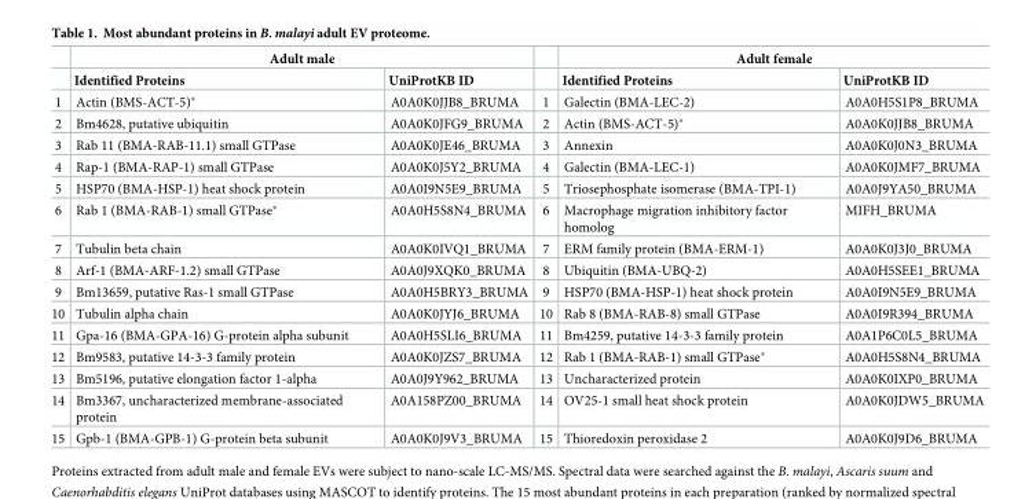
<table><thead><tr><td rowspan="2"></td><td colspan="2">Adult male</td><td rowspan="2"></td><td colspan="2">Adult female</td></tr><tr><td>Identified Proteins</td><td>UniProtKB ID</td><td>Identified Proteins</td><td>UniProtKB ID</td></tr></thead><tbody><tr><td>1</td><td>Actin (BMS-ACT-5)*</td><td>A0A0K0JJB8_BRUMA</td><td>1</td><td>Galectin (BMA-LEC-2)</td><td>A0A0H5S1P8_BRUMA</td></tr><tr><td>2</td><td>Bm4628, putative ubiquitin</td><td>A0A0K0JFG9_BRUMA</td><td>2</td><td>Actin (BMS-ACT-5)*</td><td>A0A0K0JJB8_BRUMA</td></tr><tr><td>3</td><td>Rab 11 (BMA-RAB-11.1) small GTPase</td><td>A0A0K0JE46_BRUMA</td><td>3</td><td>Annexin</td><td>A0A0K0J0N3_BRUMA</td></tr><tr><td>4</td><td>Rap-1 (BMA-RAP-1) small GTPase</td><td>A0A0K0J5Y2_BRUMA</td><td>4</td><td>Galectin (BMA-LEC-1)</td><td>A0A0K0JMF7_BRUMA</td></tr><tr><td>5</td><td>HSP70 (BMA-HSP-1) heat shock protein</td><td>A0A0I9N5E9_BRUMA</td><td>5</td><td>Triosephosphate isomerase (BMA-TPI-1)</td><td>A0A0J9YA50_BRUMA</td></tr><tr><td>6</td><td>Rab 1 (BMA-RAB-1) small GTPase*</td><td>A0A0H5S8N4_BRUMA</td><td>6</td><td>Macrophage migration inhibitory factor homolog</td><td>MIFH_BRUMA</td></tr><tr><td>7</td><td>Tubulin beta chain</td><td>A0A0K0IVQ1_BRUMA</td><td>7</td><td>ERM family protein (BMA-ERM-1)</td><td>A0A0K0J3J0_BRUMA</td></tr><tr><td>8</td><td>Arf-1 (BMA-ARF-1.2) small GTPase</td><td>A0A0J9XQK0_BRUMA</td><td>8</td><td>Ubiquitin (BMA-UBQ-2)</td><td>A0A0H5SEE1_BRUMA</td></tr><tr><td>9</td><td>Bm13659, putative Ras-1 small GTPase</td><td>A0A0H5BRY3_BRUMA</td><td>9</td><td>HSP70 (BMA-HSP-1) heat shock protein</td><td>A0A0I9N5E9_BRUMA</td></tr><tr><td>10</td><td>Tubulin alpha chain</td><td>A0A0K0JYJ6_BRUMA</td><td>10</td><td>Rab 8 (BMA-RAB-8) small GTPase</td><td>A0A0I9R394_BRUMA</td></tr><tr><td>11</td><td>Gpa-16 (BMA-GPA-16) G-protein alpha subunit</td><td>A0A0H5SLI6_BRUMA</td><td>11</td><td>Bm4259, putative 14-3-3 family protein</td><td>A0A1P6C0L5_BRUMA</td></tr><tr><td>12</td><td>Bm9583, putative 14-3-3 family protein</td><td>A0A0K0JZS7_BRUMA</td><td>12</td><td>Rab 1 (BMA-RAB-1) small GTPase*</td><td>A0A0H5S8N4_BRUMA</td></tr><tr><td>13</td><td>Bm5196, putative elongation factor 1-alpha</td><td>A0A0J9Y962_BRUMA</td><td>13</td><td>Uncharacterized protein</td><td>A0A0K0IXP0_BRUMA</td></tr><tr><td>14</td><td>Bm3367, uncharacterized membrane-associated protein</td><td>A0A158PZ00_BRUMA</td><td>14</td><td>OV25-1 small heat shock protein</td><td>A0A0K0JDW5_BRUMA</td></tr><tr><td>15</td><td>Gpb-1 (BMA-GPB-1) G-protein beta subunit</td><td>A0A0K0J9V3_BRUMA</td><td>15</td><td>Thioredoxin peroxidase 2</td><td>A0A0K0J9D6_BRUMA</td></tr></tbody></table>